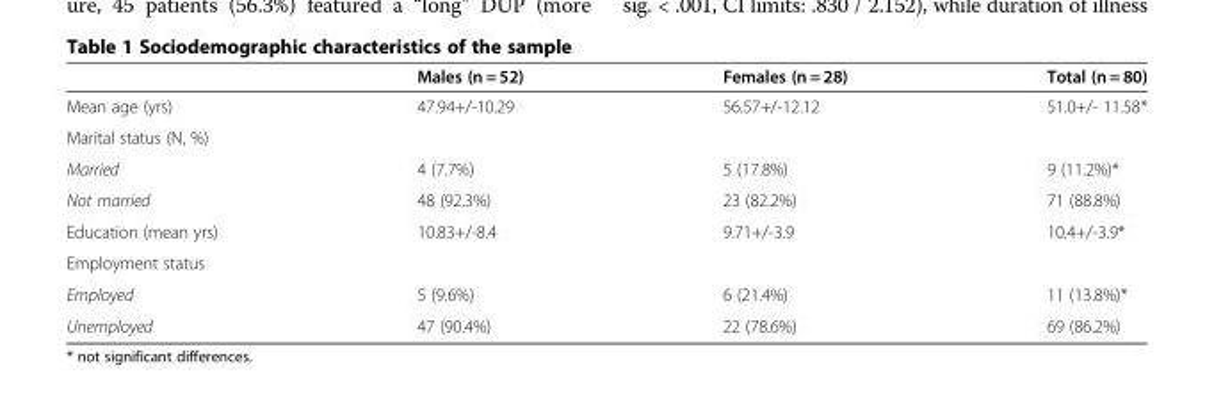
<table><thead><tr><td></td><td>Males (n = 52)</td><td>Females (n = 28)</td><td>Total (n = 80)</td></tr></thead><tbody><tr><td>Mean age (yrs)</td><td>47.94+/-10.29</td><td>56.57+/-12.12</td><td>51.0+/- 11.58*</td></tr><tr><td colspan="4">Marital status (N, %)</td></tr><tr><td>Married</td><td>4 (7.7%)</td><td>5 (17.8%)</td><td>9 (11.2%)*</td></tr><tr><td>Not married</td><td>48 (92.3%)</td><td>23 (82.2%)</td><td>71 (88.8%)</td></tr><tr><td>Education (mean yrs)</td><td>10.83+/-8.4</td><td>9.71+/-3.9</td><td>10.4+/-3.9*</td></tr><tr><td colspan="4">Employment status</td></tr><tr><td>Employed</td><td>5 (9.6%)</td><td>6 (21.4%)</td><td>11 (13.8%)*</td></tr><tr><td>Unemployed</td><td>47 (90.4%)</td><td>22 (78.6%)</td><td>69 (86.2%)</td></tr></tbody></table>